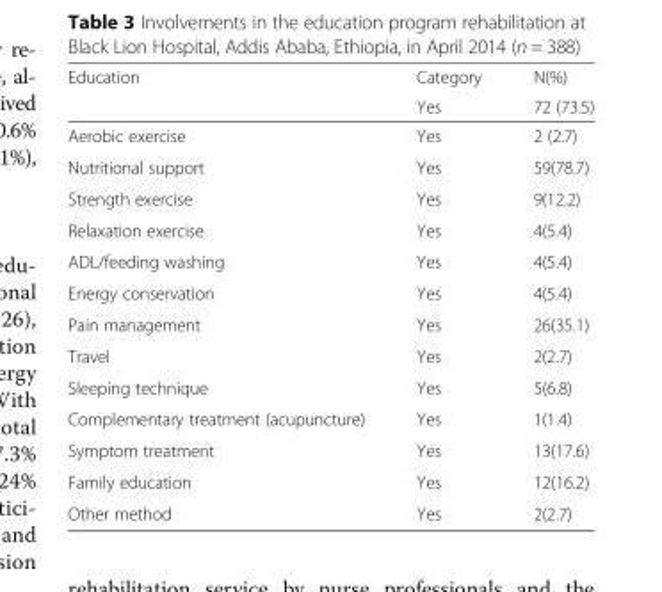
<table><thead><tr><td rowspan="2">Education</td><td rowspan="2">Category Yes</td><td rowspan="2">N(%) 72 (73.5)</td></tr><tr></tr></thead><tbody><tr><td>Aerobic exercise</td><td>Yes</td><td>2 (2.7)</td></tr><tr><td>Nutritional support</td><td>Yes</td><td>59(78.7)</td></tr><tr><td>Strength exercise</td><td>Yes</td><td>9(12.2)</td></tr><tr><td>Relaxation exercise</td><td>Yes</td><td>4(5.4)</td></tr><tr><td>ADL/feeding washing</td><td>Yes</td><td>4(5.4)</td></tr><tr><td>Energy conservation</td><td>Yes</td><td>4(5.4)</td></tr><tr><td>Pain management</td><td>Yes</td><td>26(35.1)</td></tr><tr><td>Travel</td><td>Yes</td><td>2(2.7)</td></tr><tr><td>Sleeping technique</td><td>Yes</td><td>5(6.8)</td></tr><tr><td>Complementary treatment (acupuncture)</td><td>Yes</td><td>1(1.4)</td></tr><tr><td>Symptom treatment</td><td>Yes</td><td>13(17.6)</td></tr><tr><td>Family education</td><td>Yes</td><td>12(16.2)</td></tr><tr><td>Other method</td><td>Yes</td><td>2(2.7)</td></tr></tbody></table>